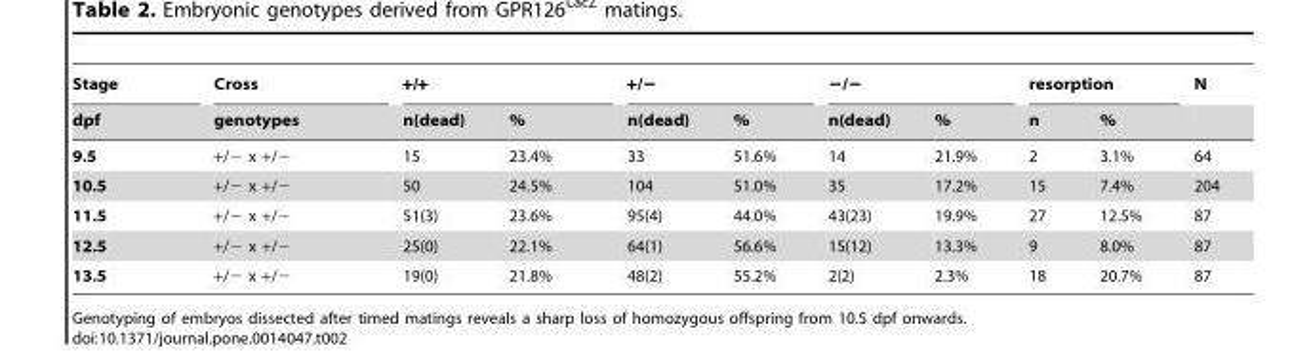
<table><thead><tr><td rowspan="2">Stage dpf</td><td rowspan="2">Cross genotypes</td><td colspan="2">+/+</td><td colspan="2">+/−</td><td colspan="2">−/−</td><td colspan="2">resorption</td><td rowspan="2">N</td></tr><tr><td>n(dead)</td><td>%</td><td>n(dead)</td><td>%</td><td>n(dead)</td><td>%</td><td>n</td><td>%</td></tr></thead><tbody><tr><td>9.5</td><td>+/− x +/−</td><td>15</td><td>23.4%</td><td>33</td><td>51.6%</td><td>14</td><td>21.9%</td><td>2</td><td>3.1%</td><td>64</td></tr><tr><td>10.5</td><td>+/− x +/−</td><td>50</td><td>24.5%</td><td>104</td><td>51.0%</td><td>35</td><td>17.2%</td><td>15</td><td>7.4%</td><td>204</td></tr><tr><td>11.5</td><td>+/− x +/−</td><td>51(3)</td><td>23.6%</td><td>95(4)</td><td>44.0%</td><td>43(23)</td><td>19.9%</td><td>27</td><td>12.5%</td><td>87</td></tr><tr><td>12.5</td><td>+/− x +/−</td><td>25(0)</td><td>22.1%</td><td>64(1)</td><td>56.6%</td><td>15(12)</td><td>13.3%</td><td>9</td><td>8.0%</td><td>87</td></tr><tr><td>13.5</td><td>+/− x +/−</td><td>19(0)</td><td>21.8%</td><td>48(2)</td><td>55.2%</td><td>2(2)</td><td>2.3%</td><td>18</td><td>20.7%</td><td>87</td></tr></tbody></table>